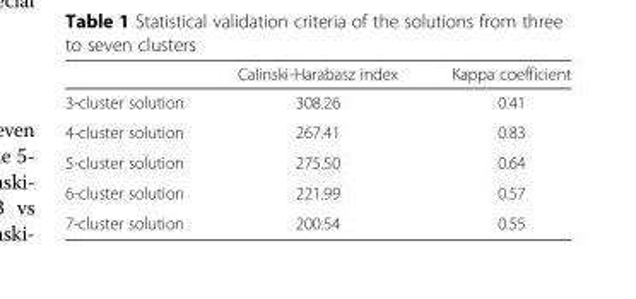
<table><thead><tr><td></td><td>Calinski-Harabasz index</td><td>Kappa coefficient</td></tr></thead><tbody><tr><td>3-cluster solution</td><td>308.26</td><td>0.41</td></tr><tr><td>4-cluster solution</td><td>267.41</td><td>0.83</td></tr><tr><td>5-cluster solution</td><td>275.50</td><td>0.64</td></tr><tr><td>6-cluster solution</td><td>221.99</td><td>0.57</td></tr><tr><td>7-cluster solution</td><td>200.54</td><td>0.55</td></tr></tbody></table>